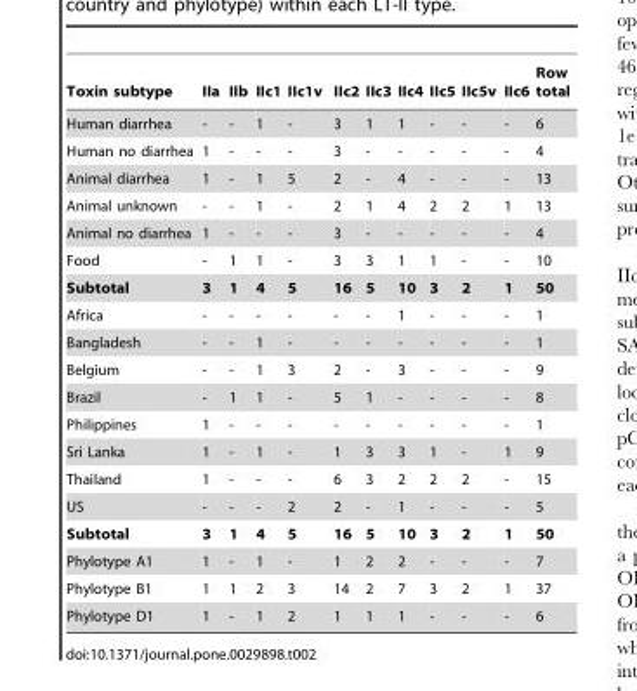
<table><thead><tr><td>Toxin subtype</td><td>IIa</td><td>IIb</td><td>IIc1</td><td>IIc1v</td><td>IIc2</td><td>IIc3</td><td>IIc4</td><td>IIc5</td><td>IIc5v</td><td>IIc6</td><td>Row total</td></tr></thead><tbody><tr><td>Human diarrhea</td><td>-</td><td>-</td><td>1</td><td>-</td><td>3</td><td>1</td><td>1</td><td>-</td><td>-</td><td>-</td><td>6</td></tr><tr><td>Human no diarrhea</td><td>1</td><td>-</td><td>-</td><td>-</td><td>3</td><td>-</td><td>-</td><td>-</td><td>-</td><td>-</td><td>4</td></tr><tr><td>Animal diarrhea</td><td>1</td><td>-</td><td>1</td><td>5</td><td>2</td><td>-</td><td>4</td><td>-</td><td>-</td><td>-</td><td>13</td></tr><tr><td>Animal unknown</td><td>-</td><td>-</td><td>1</td><td>-</td><td>2</td><td>1</td><td>4</td><td>2</td><td>2</td><td>1</td><td>13</td></tr><tr><td>Animal no diarrhea</td><td>1</td><td>-</td><td>-</td><td>-</td><td>3</td><td>-</td><td>-</td><td>-</td><td>-</td><td>-</td><td>4</td></tr><tr><td>Food</td><td>-</td><td>1</td><td>1</td><td>-</td><td>3</td><td>3</td><td>1</td><td>1</td><td>-</td><td>-</td><td>10</td></tr><tr><td>Subtotal</td><td>3</td><td>1</td><td>4</td><td>5</td><td>16</td><td>5</td><td>10</td><td>3</td><td>2</td><td>1</td><td>50</td></tr><tr><td>Africa</td><td>-</td><td>-</td><td>-</td><td>-</td><td>-</td><td>-</td><td>1</td><td>-</td><td>-</td><td>-</td><td>1</td></tr><tr><td>Bangladesh</td><td>-</td><td>-</td><td>1</td><td>-</td><td>-</td><td>-</td><td>-</td><td>-</td><td>-</td><td>-</td><td>1</td></tr><tr><td>Belgium</td><td>-</td><td>-</td><td>1</td><td>3</td><td>2</td><td>-</td><td>3</td><td>-</td><td>-</td><td>-</td><td>9</td></tr><tr><td>Brazil</td><td>-</td><td>1</td><td>1</td><td>-</td><td>5</td><td>1</td><td>-</td><td>-</td><td>-</td><td>-</td><td>8</td></tr><tr><td>Philippines</td><td>1</td><td>-</td><td>-</td><td>-</td><td>-</td><td>-</td><td>-</td><td>-</td><td>-</td><td>-</td><td>1</td></tr><tr><td>Sri Lanka</td><td>1</td><td>-</td><td>1</td><td>-</td><td>1</td><td>3</td><td>3</td><td>1</td><td>-</td><td>1</td><td>9</td></tr><tr><td>Thailand</td><td>1</td><td>-</td><td>-</td><td>-</td><td>6</td><td>3</td><td>2</td><td>2</td><td>2</td><td>-</td><td>15</td></tr><tr><td>US</td><td>-</td><td>-</td><td>-</td><td>2</td><td>2</td><td>-</td><td>1</td><td>-</td><td>-</td><td>-</td><td>5</td></tr><tr><td>Subtotal</td><td>3</td><td>1</td><td>4</td><td>5</td><td>16</td><td>5</td><td>10</td><td>3</td><td>2</td><td>1</td><td>50</td></tr><tr><td>Phylotype A1</td><td>1</td><td>-</td><td>1</td><td>-</td><td>1</td><td>2</td><td>2</td><td>-</td><td>-</td><td>-</td><td>7</td></tr><tr><td>Phylotype B1</td><td>1</td><td>1</td><td>2</td><td>3</td><td>14</td><td>2</td><td>7</td><td>3</td><td>2</td><td>1</td><td>37</td></tr><tr><td>Phylotype D1</td><td>1</td><td>-</td><td>1</td><td>2</td><td>1</td><td>1</td><td>1</td><td>-</td><td>-</td><td>-</td><td>6</td></tr></tbody></table>